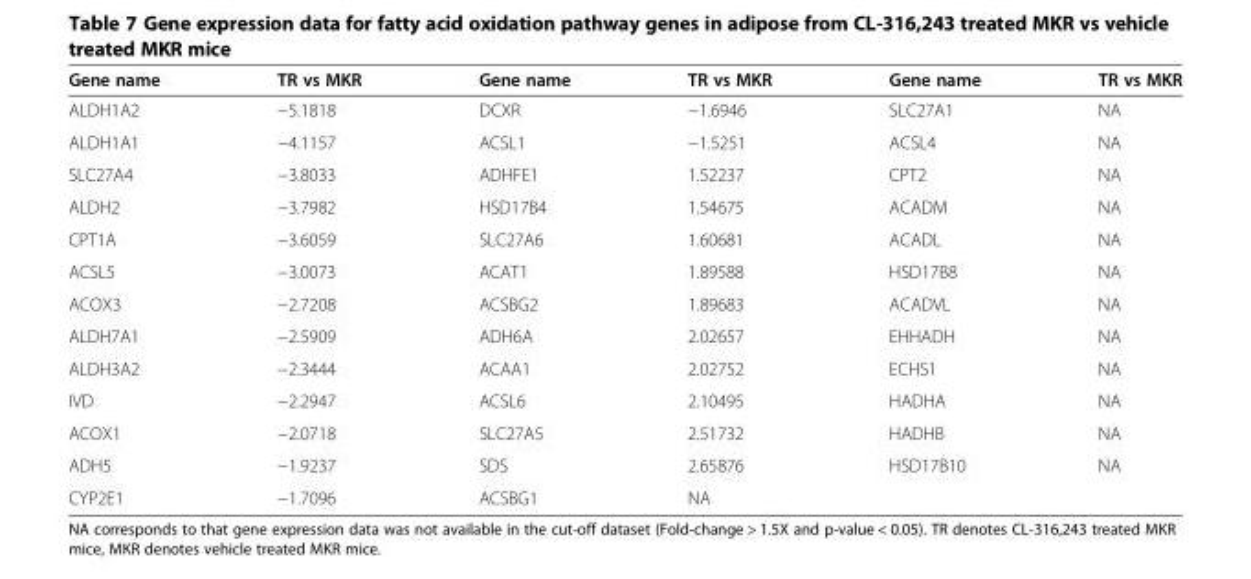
<table><thead><tr><td>Gene name</td><td>TR vs MKR</td><td>Gene name</td><td>TR vs MKR</td><td>Gene name</td><td>TR vs MKR</td></tr></thead><tbody><tr><td>ALDH1A2</td><td>−5.1818</td><td>DCXR</td><td>−1.6946</td><td>SLC27A1</td><td>NA</td></tr><tr><td>ALDH1A1</td><td>−4.1157</td><td>ACSL1</td><td>−1.5251</td><td>ACSL4</td><td>NA</td></tr><tr><td>SLC27A4</td><td>−3.8033</td><td>ADHFE1</td><td>1.52237</td><td>CPT2</td><td>NA</td></tr><tr><td>ALDH2</td><td>−3.7982</td><td>HSD17B4</td><td>1.54675</td><td>ACADM</td><td>NA</td></tr><tr><td>CPT1A</td><td>−3.6059</td><td>SLC27A6</td><td>1.60681</td><td>ACADL</td><td>NA</td></tr><tr><td>ACSL5</td><td>−3.0073</td><td>ACAT1</td><td>1.89588</td><td>HSD17B8</td><td>NA</td></tr><tr><td>ACOX3</td><td>−2.7208</td><td>ACSBG2</td><td>1.89683</td><td>ACADVL</td><td>NA</td></tr><tr><td>ALDH7A1</td><td>−2.5909</td><td>ADH6A</td><td>2.02657</td><td>EHHADH</td><td>NA</td></tr><tr><td>ALDH3A2</td><td>−2.3444</td><td>ACAA1</td><td>2.02752</td><td>ECHS1</td><td>NA</td></tr><tr><td>IVD</td><td>−2.2947</td><td>ACSL6</td><td>2.10495</td><td>HADHA</td><td>NA</td></tr><tr><td>ACOX1</td><td>−2.0718</td><td>SLC27A5</td><td>2.51732</td><td>HADHB</td><td>NA</td></tr><tr><td>ADH5</td><td>−1.9237</td><td>SDS</td><td>2.65876</td><td>HSD17B10</td><td>NA</td></tr><tr><td>CYP2E1</td><td>−1.7096</td><td>ACSBG1</td><td>NA</td><td></td><td></td></tr></tbody></table>